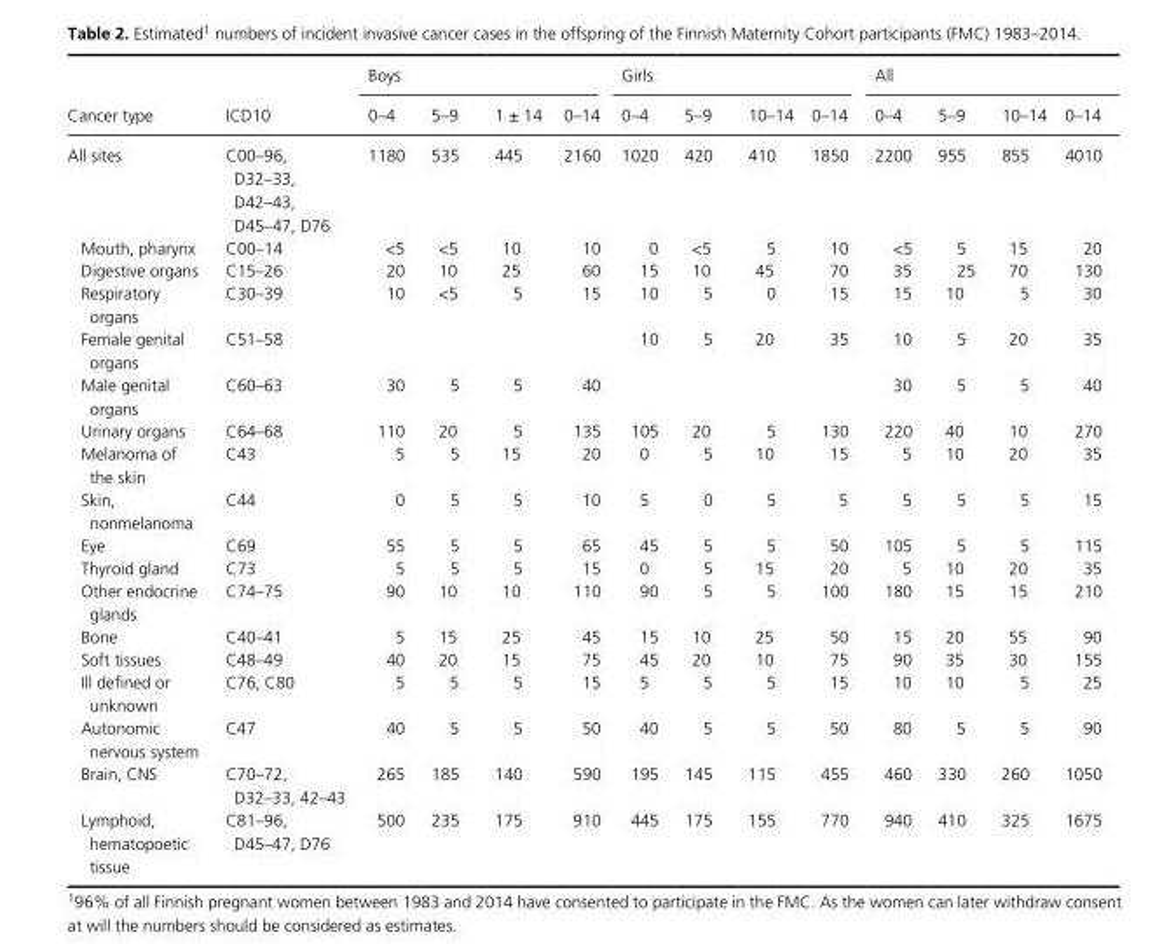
<table><thead><tr><td rowspan="2">Cancer type</td><td rowspan="2">ICD10</td><td colspan="4">Boys</td><td colspan="4">Girls</td><td colspan="4">All</td></tr><tr><td>0–4</td><td>5–9</td><td>1 ± 14</td><td>0–14</td><td>0–4</td><td>5–9</td><td>10–14</td><td>0–14</td><td>0–4</td><td>5–9</td><td>10–14</td><td>0–14</td></tr></thead><tbody><tr><td>All sites</td><td>C00–96, D32–33, D42–43, D45–47, D76</td><td>1180</td><td>535</td><td>445</td><td>2160</td><td>1020</td><td>420</td><td>410</td><td>1850</td><td>2200</td><td>955</td><td>855</td><td>4010</td></tr><tr><td>Mouth, pharynx</td><td>C00–14</td><td>&lt;5</td><td>&lt;5</td><td>10</td><td>10</td><td>0</td><td>&lt;5</td><td>5</td><td>10</td><td>&lt;5</td><td>5</td><td>15</td><td>20</td></tr><tr><td>Digestive organs</td><td>C15–26</td><td>20</td><td>10</td><td>25</td><td>60</td><td>15</td><td>10</td><td>45</td><td>70</td><td>35</td><td>25</td><td>70</td><td>130</td></tr><tr><td>Respiratory organs</td><td>C30–39</td><td>10</td><td>&lt;5</td><td>5</td><td>15</td><td>10</td><td>5</td><td>0</td><td>15</td><td>15</td><td>10</td><td>5</td><td>30</td></tr><tr><td>Female genital organs</td><td>C51–58</td><td></td><td></td><td></td><td></td><td>10</td><td>5</td><td>20</td><td>35</td><td>10</td><td>5</td><td>20</td><td>35</td></tr><tr><td>Male genital organs</td><td>C60–63</td><td>30</td><td>5</td><td>5</td><td>40</td><td></td><td></td><td></td><td></td><td>30</td><td>5</td><td>5</td><td>40</td></tr><tr><td>Urinary organs</td><td>C64–68</td><td>110</td><td>20</td><td>5</td><td>135</td><td>105</td><td>20</td><td>5</td><td>130</td><td>220</td><td>40</td><td>10</td><td>270</td></tr><tr><td>Melanoma of the skin</td><td>C43</td><td>5</td><td>5</td><td>15</td><td>20</td><td>0</td><td>5</td><td>10</td><td>15</td><td>5</td><td>10</td><td>20</td><td>35</td></tr><tr><td>Skin, nonmelanoma</td><td>C44</td><td>0</td><td>5</td><td>5</td><td>10</td><td>5</td><td>0</td><td>5</td><td>5</td><td>5</td><td>5</td><td>5</td><td>15</td></tr><tr><td>Eye</td><td>C69</td><td>55</td><td>5</td><td>5</td><td>65</td><td>45</td><td>5</td><td>5</td><td>50</td><td>105</td><td>5</td><td>5</td><td>115</td></tr><tr><td>Thyroid gland</td><td>C73</td><td>5</td><td>5</td><td>5</td><td>15</td><td>0</td><td>5</td><td>15</td><td>20</td><td>5</td><td>10</td><td>20</td><td>35</td></tr><tr><td>Other endocrine glands</td><td>C74–75</td><td>90</td><td>10</td><td>10</td><td>110</td><td>90</td><td>5</td><td>5</td><td>100</td><td>180</td><td>15</td><td>15</td><td>210</td></tr><tr><td>Bone</td><td>C40–41</td><td>5</td><td>15</td><td>25</td><td>45</td><td>15</td><td>10</td><td>25</td><td>50</td><td>15</td><td>20</td><td>55</td><td>90</td></tr><tr><td>Soft tissues</td><td>C48–49</td><td>40</td><td>20</td><td>15</td><td>75</td><td>45</td><td>20</td><td>10</td><td>75</td><td>90</td><td>35</td><td>30</td><td>155</td></tr><tr><td>Ill defined or unknown</td><td>C76, C80</td><td>5</td><td>5</td><td>5</td><td>15</td><td>5</td><td>5</td><td>5</td><td>15</td><td>10</td><td>10</td><td>5</td><td>25</td></tr><tr><td>Autonomic nervous system</td><td>C47</td><td>40</td><td>5</td><td>5</td><td>50</td><td>40</td><td>5</td><td>5</td><td>50</td><td>80</td><td>5</td><td>5</td><td>90</td></tr><tr><td>Brain, CNS</td><td>C70–72, D32–33, 42–43</td><td>265</td><td>185</td><td>140</td><td>590</td><td>195</td><td>145</td><td>115</td><td>455</td><td>460</td><td>330</td><td>260</td><td>1050</td></tr><tr><td>Lymphoid, hematopoetic tissue</td><td>C81–96, D45–47, D76</td><td>500</td><td>235</td><td>175</td><td>910</td><td>445</td><td>175</td><td>155</td><td>770</td><td>940</td><td>410</td><td>325</td><td>1675</td></tr></tbody></table>